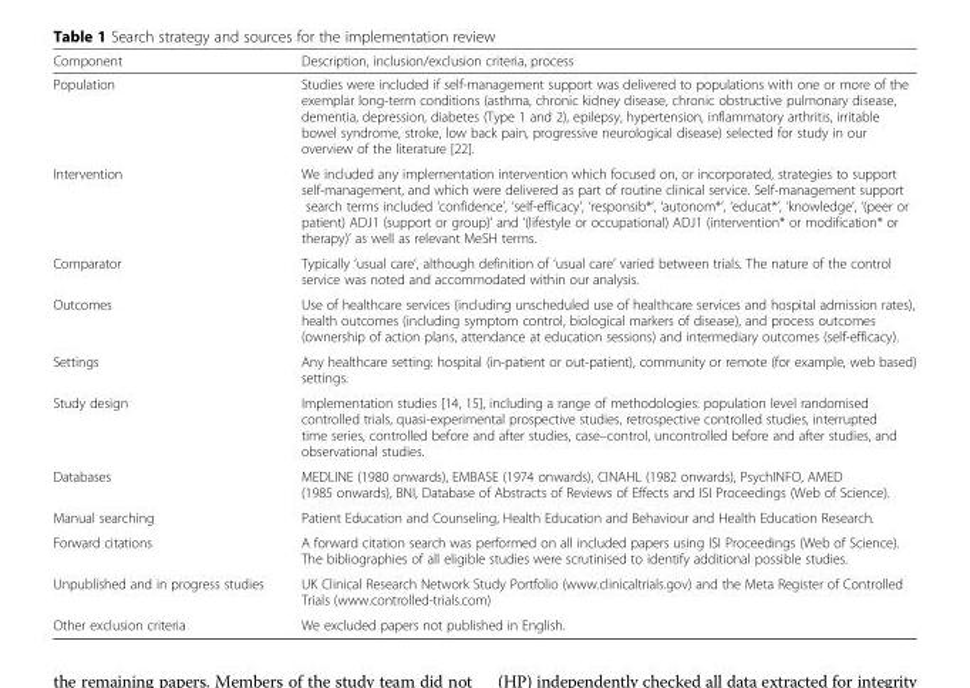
<table><thead><tr><td>Component</td><td>Description, inclusion/exclusion criteria, process</td></tr></thead><tbody><tr><td>Population</td><td>Studies were included if self-management support was delivered to populations with one or more of the exemplar long-term conditions (asthma, chronic kidney disease, chronic obstructive pulmonary disease, dementia, depression, diabetes (Type 1 and 2), epilepsy, hypertension, inflammatory arthritis, irritable bowel syndrome, stroke, low back pain, progressive neurological disease) selected for study in our overview of the literature [22].</td></tr><tr><td>Intervention</td><td>We included any implementation intervention which focused on, or incorporated, strategies to support self-management, and which were delivered as part of routine clinical service. Self-management support search terms included ‘confidence’, ‘self-efficacy’, ‘responsib*’, ‘autonom*’, ‘educat*’, ‘knowledge’, ‘(peer or patient) ADJ1 (support or group)’ and ‘(lifestyle or occupational) ADJ1 (intervention* or modification* or therapy)’ as well as relevant MeSH terms.</td></tr><tr><td>Comparator</td><td>Typically ‘usual care’, although definition of ‘usual care’ varied between trials. The nature of the control service was noted and accommodated within our analysis.</td></tr><tr><td>Outcomes</td><td>Use of healthcare services (including unscheduled use of healthcare services and hospital admission rates), health outcomes (including symptom control, biological markers of disease), and process outcomes (ownership of action plans, attendance at education sessions) and intermediary outcomes (self-efficacy).</td></tr><tr><td>Settings</td><td>Any healthcare setting: hospital (in-patient or out-patient), community or remote (for example, web based) settings.</td></tr><tr><td>Study design</td><td>Implementation studies [14, 15], including a range of methodologies: population level randomised controlled trials, quasi-experimental prospective studies, retrospective controlled studies, interrupted time series, controlled before and after studies, case–control, uncontrolled before and after studies, and observational studies.</td></tr><tr><td>Databases</td><td>MEDLINE (1980 onwards), EMBASE (1974 onwards), CINAHL (1982 onwards), PsychINFO, AMED (1985 onwards), BNI, Database of Abstracts of Reviews of Effects and ISI Proceedings (Web of Science).</td></tr><tr><td>Manual searching</td><td>Patient Education and Counseling, Health Education and Behaviour and Health Education Research.</td></tr><tr><td>Forward citations</td><td>A forward citation search was performed on all included papers using ISI Proceedings (Web of Science). The bibliographies of all eligible studies were scrutinised to identify additional possible studies.</td></tr><tr><td>Unpublished and in progress studies</td><td>UK Clinical Research Network Study Portfolio (www.clinicaltrials.gov) and the Meta Register of Controlled Trials (www.controlled-trials.com)</td></tr><tr><td>Other exclusion criteria</td><td>We excluded papers not published in English.</td></tr></tbody></table>